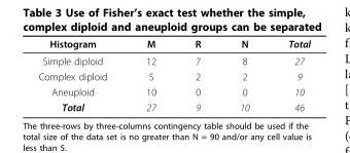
<table><thead><tr><td>Histogram</td><td>M</td><td>R</td><td>N</td><td>Total</td></tr></thead><tbody><tr><td>Simple diploid</td><td>12</td><td>7</td><td>8</td><td>27</td></tr><tr><td>Complex diploid</td><td>5</td><td>2</td><td>2</td><td>9</td></tr><tr><td>Aneuploid</td><td>10</td><td>0</td><td>0</td><td>10</td></tr><tr><td>Total</td><td>27</td><td>9</td><td>10</td><td>46</td></tr></tbody></table>